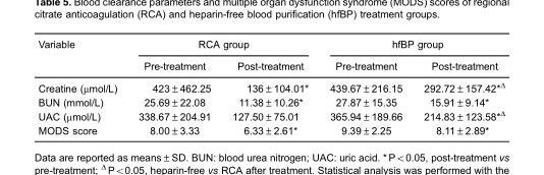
<table><thead><tr><td rowspan="2">Variable</td><td colspan="2">RCA group</td><td colspan="2">hfBP group</td></tr><tr><td>Pre-treatment</td><td>Post-treatment</td><td>Pre-treatment</td><td>Post-treatment</td></tr></thead><tbody><tr><td>Creatine (µmol/L)</td><td>423±462.25</td><td>136±104.01*</td><td>439.67±216.15</td><td>292.72±157.42*Δ</td></tr><tr><td>BUN (mmol/L)</td><td>25.69±22.08</td><td>11.38±10.26*</td><td>27.87±15.35</td><td>15.91±9.14*</td></tr><tr><td>UAC (µmol/L)</td><td>338.67±204.91</td><td>127.50±75.01</td><td>365.94±189.66</td><td>214.83±123.58*Δ</td></tr><tr><td>MODS score</td><td>8.00±3.33</td><td>6.33±2.61*</td><td>9.39±2.25</td><td>8.11±2.89*</td></tr></tbody></table>